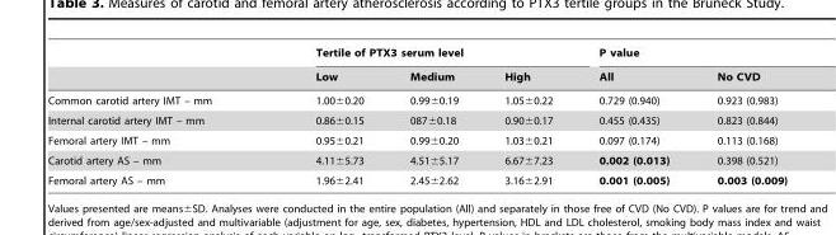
<table><thead><tr><td rowspan="2"></td><td colspan="3">Tertile of PTX3 serum level</td><td colspan="2">P value</td></tr><tr><td>Low</td><td>Medium</td><td>High</td><td>All</td><td>No CVD</td></tr></thead><tbody><tr><td>Common carotid artery IMT – mm</td><td>1.00±0.20</td><td>0.99±0.19</td><td>1.05±0.22</td><td>0.729 (0.940)</td><td>0.923 (0.983)</td></tr><tr><td>Internal carotid artery IMT – mm</td><td>0.86±0.15</td><td>087±0.18</td><td>0.90±0.17</td><td>0.455 (0.435)</td><td>0.823 (0.844)</td></tr><tr><td>Femoral artery IMT – mm</td><td>0.95±0.21</td><td>0.99±0.20</td><td>1.03±0.21</td><td>0.097 (0.174)</td><td>0.113 (0.168)</td></tr><tr><td>Carotid artery AS – mm</td><td>4.11±5.73</td><td>4.51±5.17</td><td>6.67±7.23</td><td>0.002 (0.013)</td><td>0.398 (0.521)</td></tr><tr><td>Femoral artery AS – mm</td><td>1.96±2.41</td><td>2.45±2.62</td><td>3.16±2.91</td><td>0.001 (0.005)</td><td>0.003 (0.009)</td></tr></tbody></table>